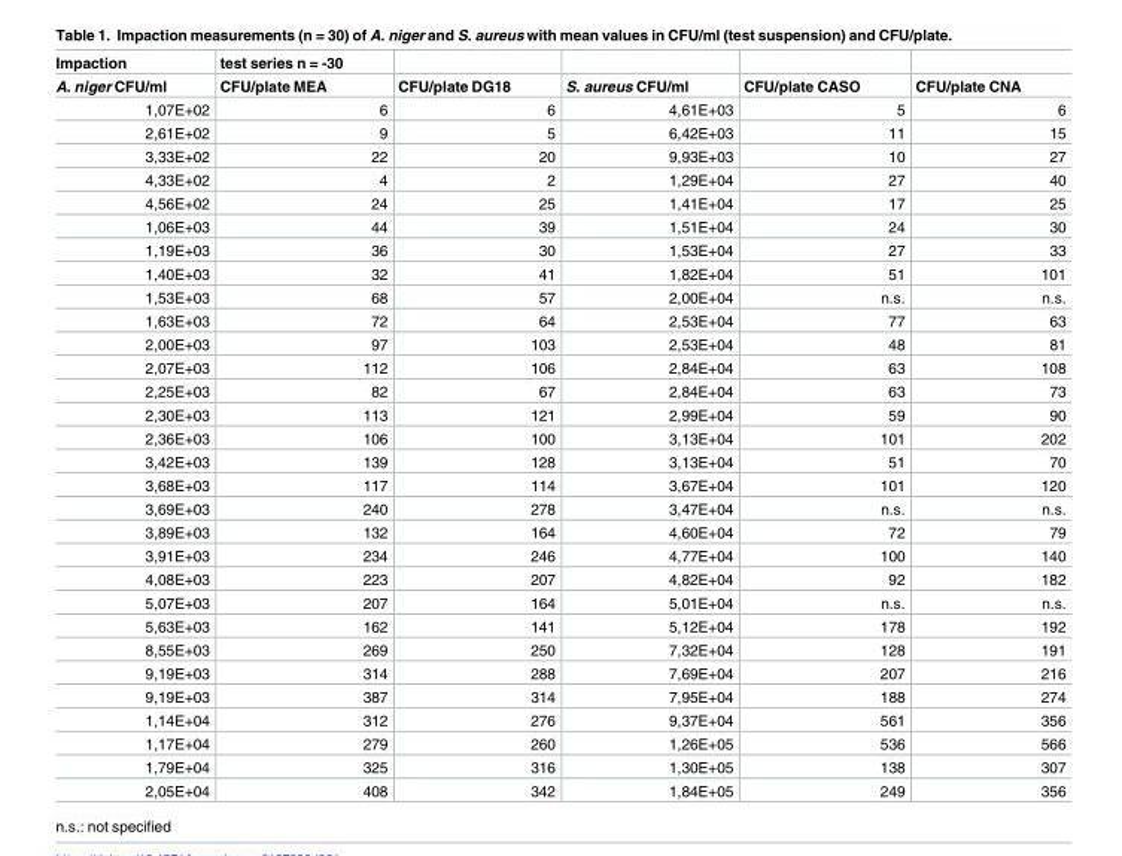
<table><thead><tr><td rowspan="2">Impaction A. niger CFU/ml</td><td rowspan="2">test series n = -30 CFU/plate MEA</td><td rowspan="2">CFU/plate DG18</td><td rowspan="2">S. aureus CFU/ml</td><td rowspan="2">CFU/plate CASO</td><td rowspan="2">CFU/plate CNA</td></tr><tr></tr></thead><tbody><tr><td>1,07E+02</td><td>6</td><td>6</td><td>4,61E+03</td><td>5</td><td>6</td></tr><tr><td>2,61E+02</td><td>9</td><td>5</td><td>6,42E+03</td><td>11</td><td>15</td></tr><tr><td>3,33E+02</td><td>22</td><td>20</td><td>9,93E+03</td><td>10</td><td>27</td></tr><tr><td>4,33E+02</td><td>4</td><td>2</td><td>1,29E+04</td><td>27</td><td>40</td></tr><tr><td>4,56E+02</td><td>24</td><td>25</td><td>1,41E+04</td><td>17</td><td>25</td></tr><tr><td>1,06E+03</td><td>44</td><td>39</td><td>1,51E+04</td><td>24</td><td>30</td></tr><tr><td>1,19E+03</td><td>36</td><td>30</td><td>1,53E+04</td><td>27</td><td>33</td></tr><tr><td>1,40E+03</td><td>32</td><td>41</td><td>1,82E+04</td><td>51</td><td>101</td></tr><tr><td>1,53E+03</td><td>68</td><td>57</td><td>2,00E+04</td><td>n.s.</td><td>n.s.</td></tr><tr><td>1,63E+03</td><td>72</td><td>64</td><td>2,53E+04</td><td>77</td><td>63</td></tr><tr><td>2,00E+03</td><td>97</td><td>103</td><td>2,53E+04</td><td>48</td><td>81</td></tr><tr><td>2,07E+03</td><td>112</td><td>106</td><td>2,84E+04</td><td>63</td><td>108</td></tr><tr><td>2,25E+03</td><td>82</td><td>67</td><td>2,84E+04</td><td>63</td><td>73</td></tr><tr><td>2,30E+03</td><td>113</td><td>121</td><td>2,99E+04</td><td>59</td><td>90</td></tr><tr><td>2,36E+03</td><td>106</td><td>100</td><td>3,13E+04</td><td>101</td><td>202</td></tr><tr><td>3,42E+03</td><td>139</td><td>128</td><td>3,13E+04</td><td>51</td><td>70</td></tr><tr><td>3,68E+03</td><td>117</td><td>114</td><td>3,67E+04</td><td>101</td><td>120</td></tr><tr><td>3,69E+03</td><td>240</td><td>278</td><td>3,47E+04</td><td>n.s.</td><td>n.s.</td></tr><tr><td>3,89E+03</td><td>132</td><td>164</td><td>4,60E+04</td><td>72</td><td>79</td></tr><tr><td>3,91E+03</td><td>234</td><td>246</td><td>4,77E+04</td><td>100</td><td>140</td></tr><tr><td>4,08E+03</td><td>223</td><td>207</td><td>4,82E+04</td><td>92</td><td>182</td></tr><tr><td>5,07E+03</td><td>207</td><td>164</td><td>5,01E+04</td><td>n.s.</td><td>n.s.</td></tr><tr><td>5,63E+03</td><td>162</td><td>141</td><td>5,12E+04</td><td>178</td><td>192</td></tr><tr><td>8,55E+03</td><td>269</td><td>250</td><td>7,32E+04</td><td>128</td><td>191</td></tr><tr><td>9,19E+03</td><td>314</td><td>288</td><td>7,69E+04</td><td>207</td><td>216</td></tr><tr><td>9,19E+03</td><td>387</td><td>314</td><td>7,95E+04</td><td>188</td><td>274</td></tr><tr><td>1,14E+04</td><td>312</td><td>276</td><td>9,37E+04</td><td>561</td><td>356</td></tr><tr><td>1,17E+04</td><td>279</td><td>260</td><td>1,26E+05</td><td>536</td><td>566</td></tr><tr><td>1,79E+04</td><td>325</td><td>316</td><td>1,30E+05</td><td>138</td><td>307</td></tr><tr><td>2,05E+04</td><td>408</td><td>342</td><td>1,84E+05</td><td>249</td><td>356</td></tr></tbody></table>